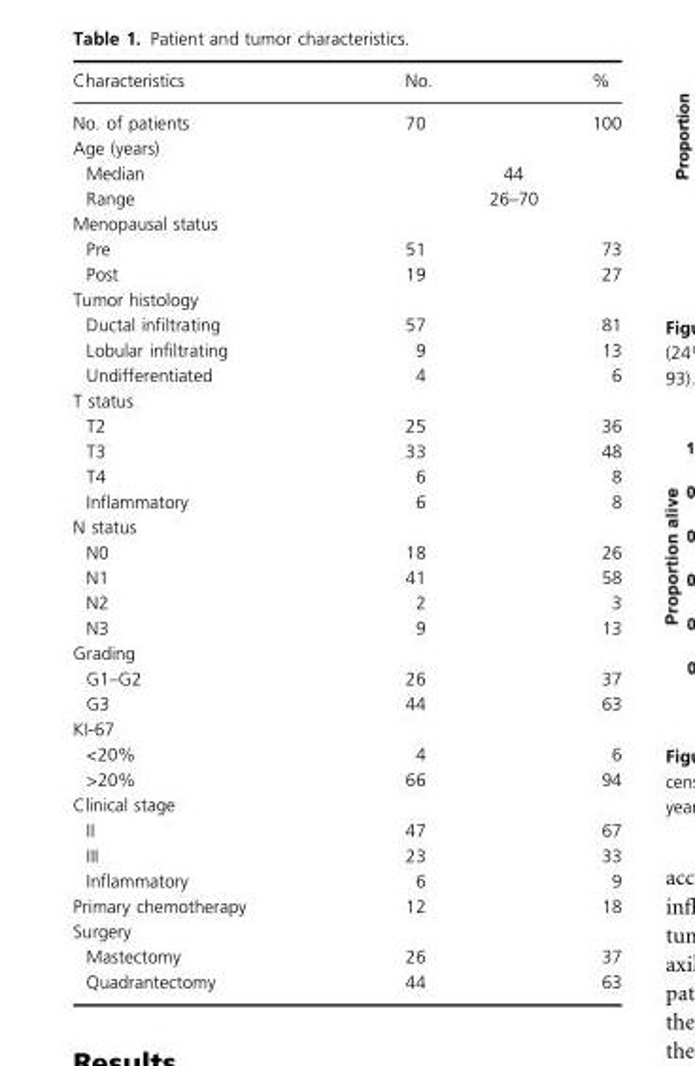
<table><thead><tr><td>Characteristics</td><td>No.</td><td>%</td></tr></thead><tbody><tr><td>No. of patients</td><td>70</td><td>100</td></tr><tr><td colspan="3">Age (years)</td></tr><tr><td>Median</td><td colspan="2">44</td></tr><tr><td>Range</td><td colspan="2">26–70</td></tr><tr><td colspan="3">Menopausal status</td></tr><tr><td>Pre</td><td>51</td><td>73</td></tr><tr><td>Post</td><td>19</td><td>27</td></tr><tr><td colspan="3">Tumor histology</td></tr><tr><td>Ductal infiltrating</td><td>57</td><td>81</td></tr><tr><td>Lobular infiltrating</td><td>9</td><td>13</td></tr><tr><td>Undifferentiated</td><td>4</td><td>6</td></tr><tr><td colspan="3">T status</td></tr><tr><td>T2</td><td>25</td><td>36</td></tr><tr><td>T3</td><td>33</td><td>48</td></tr><tr><td>T4</td><td>6</td><td>8</td></tr><tr><td>Inflammatory</td><td>6</td><td>8</td></tr><tr><td colspan="3">N status</td></tr><tr><td>N0</td><td>18</td><td>26</td></tr><tr><td>N1</td><td>41</td><td>58</td></tr><tr><td>N2</td><td>2</td><td>3</td></tr><tr><td>N3</td><td>9</td><td>13</td></tr><tr><td colspan="3">Grading</td></tr><tr><td>G1–G2</td><td>26</td><td>37</td></tr><tr><td>G3</td><td>44</td><td>63</td></tr><tr><td colspan="3">KI-67</td></tr><tr><td>&lt;20%</td><td>4</td><td>6</td></tr><tr><td>&gt;20%</td><td>66</td><td>94</td></tr><tr><td colspan="3">Clinical stage</td></tr><tr><td>II</td><td>47</td><td>67</td></tr><tr><td>III</td><td>23</td><td>33</td></tr><tr><td>Inflammatory</td><td>6</td><td>9</td></tr><tr><td>Primary chemotherapy</td><td>12</td><td>18</td></tr><tr><td colspan="3">Surgery</td></tr><tr><td>Mastectomy</td><td>26</td><td>37</td></tr><tr><td>Quadrantectomy</td><td>44</td><td>63</td></tr></tbody></table>